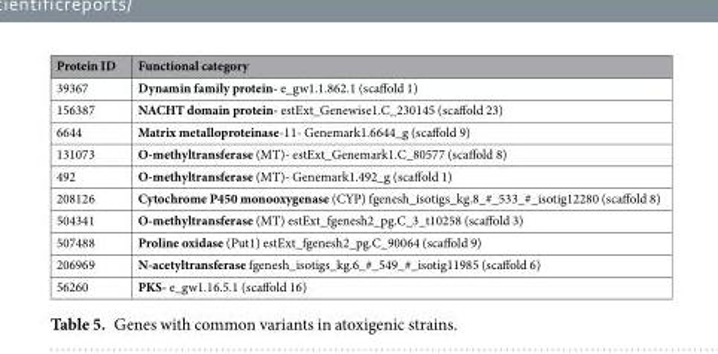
<table><thead><tr><td>Protein ID</td><td>Functional category</td></tr></thead><tbody><tr><td>39367</td><td>Dynamin family protein- e_gw1.1.862.1 (scaffold 1)</td></tr><tr><td>156387</td><td>NACHT domain protein- estExt_Genewise1.C_230145 (scaffold 23)</td></tr><tr><td>6644</td><td>Matrix metalloproteinase-11- Genemark1.6644_g (scaffold 9)</td></tr><tr><td>131073</td><td>O-methyltransferase (MT)- estExt_Genemark1.C_80577 (scaffold 8)</td></tr><tr><td>492</td><td>O-methyltransferase (MT)- Genemark1.492_g (scaffold 1)</td></tr><tr><td>208126</td><td>Cytochrome P450 monooxygenase (CYP) fgenesh_isotigs_kg.8_#_533_#_isotig12280 (scaffold 8)</td></tr><tr><td>504341</td><td>O-methyltransferase (MT) estExt_fgenesh2_pg.C_3_t10258 (scaffold 3)</td></tr><tr><td>507488</td><td>Proline oxidase (Put1) estExt_fgenesh2_pg.C_90064 (scaffold 9)</td></tr><tr><td>206969</td><td>N-acetyltransferase fgenesh_isotigs_kg.6_#_549_#_isotig11985 (scaffold 6)</td></tr><tr><td>56260</td><td>PKS- e_gw1.16.5.1 (scaffold 16)</td></tr></tbody></table>